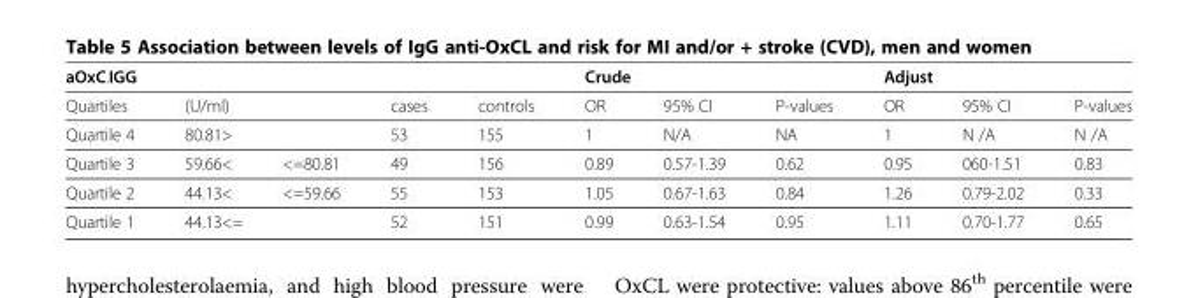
<table><thead><tr><td colspan="3">aOxC.IGG</td><td rowspan="4">cases 53 49</td><td rowspan="4">controls 155 156</td><td colspan="3">Crude</td><td colspan="3">Adjust</td></tr><tr><td rowspan="3">Quartiles Quartile 4 Quartile 3</td><td rowspan="2" colspan="2">(U/ml) 80.81&gt;</td><td rowspan="3">OR 1 0.89</td><td rowspan="3">95% CI N/A 0.57-1.39</td><td rowspan="3">P-values NA 0.62</td><td rowspan="3">OR 1 0.95</td><td rowspan="3">95% CI N /A 060-1.51</td><td rowspan="3">P-values N /A 0.83</td></tr><tr></tr><tr><td>59.66&lt;</td><td>&lt;=80.81</td></tr></thead><tbody><tr><td>Quartile 2</td><td>44.13&lt;</td><td>&lt;=59.66</td><td>55</td><td>153</td><td>1.05</td><td>0.67-1.63</td><td>0.84</td><td>1.26</td><td>0.79-2.02</td><td>0.33</td></tr><tr><td>Quartile 1</td><td colspan="2">44.13&lt;=</td><td>52</td><td>151</td><td>0.99</td><td>0.63-1.54</td><td>0.95</td><td>1.11</td><td>0.70-1.77</td><td>0.65</td></tr></tbody></table>